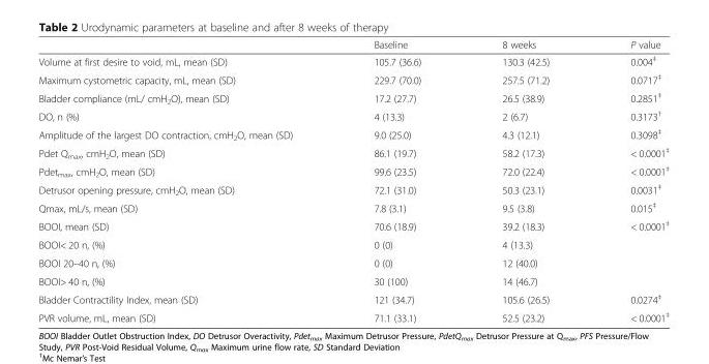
<table><thead><tr><td></td><td>Baseline</td><td>8 weeks</td><td>P value</td></tr></thead><tbody><tr><td>Volume at first desire to void, mL, mean (SD)</td><td>105.7 (36.6)</td><td>130.3 (42.5)</td><td>0.004<sup>‡</sup></td></tr><tr><td>Maximum cystometric capacity, mL, mean (SD)</td><td>229.7 (70.0)</td><td>257.5 (71.2)</td><td>0.0717<sup>‡</sup></td></tr><tr><td>Bladder compliance (mL/ cmH<sub>2</sub>O), mean (SD)</td><td>17.2 (27.7)</td><td>26.5 (38.9)</td><td>0.2851<sup>‡</sup></td></tr><tr><td>DO, n (%)</td><td>4 (13.3)</td><td>2 (6.7)</td><td>0.3173<sup>†</sup></td></tr><tr><td>Amplitude of the largest DO contraction, cmH<sub>2</sub>O, mean (SD)</td><td>9.0 (25.0)</td><td>4.3 (12.1)</td><td>0.3098<sup>‡</sup></td></tr><tr><td>Pdet Q<sub>max</sub>, cmH<sub>2</sub>O, mean (SD)</td><td>86.1 (19.7)</td><td>58.2 (17.3)</td><td>&lt; 0.0001<sup>‡</sup></td></tr><tr><td>Pdet<sub>max</sub>, cmH<sub>2</sub>O, mean (SD)</td><td>99.6 (23.5)</td><td>72.0 (22.4)</td><td>&lt; 0.0001<sup>‡</sup></td></tr><tr><td>Detrusor opening pressure, cmH<sub>2</sub>O, mean (SD)</td><td>72.1 (31.0)</td><td>50.3 (23.1)</td><td>0.0031<sup>‡</sup></td></tr><tr><td>Qmax, mL/s, mean (SD)</td><td>7.8 (3.1)</td><td>9.5 (3.8)</td><td>0.015<sup>‡</sup></td></tr><tr><td>BOOI, mean (SD)</td><td>70.6 (18.9)</td><td>39.2 (18.3)</td><td>&lt; 0.0001<sup>‡</sup></td></tr><tr><td>BOOI&lt; 20 n, (%)</td><td>0 (0)</td><td>4 (13.3)</td><td></td></tr><tr><td>BOOI 20–40 n, (%)</td><td>0 (0)</td><td>12 (40.0)</td><td></td></tr><tr><td>BOOI&gt; 40 n, (%)</td><td>30 (100)</td><td>14 (46.7)</td><td></td></tr><tr><td>Bladder Contractility Index, mean (SD)</td><td>121 (34.7)</td><td>105.6 (26.5)</td><td>0.0274<sup>‡</sup></td></tr><tr><td>PVR volume, mL, mean (SD)</td><td>71.1 (33.1)</td><td>52.5 (23.2)</td><td>&lt; 0.0001<sup>‡</sup></td></tr></tbody></table>